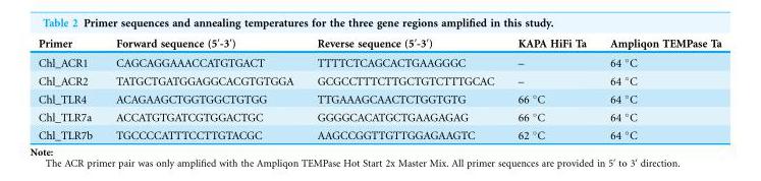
<table><thead><tr><td>Primer</td><td>Forward sequence (5′-3′)</td><td>Reverse sequence (5′-3′)</td><td>KAPA HiFi Ta</td><td>Ampliqon TEMPase Ta</td></tr></thead><tbody><tr><td>Chl_ACR1</td><td>CAGCAGGAAACCATGTGACT</td><td>TTTTCTCAGCACTGAAGGGC</td><td>–</td><td>64 °C</td></tr><tr><td>Chl_ACR2</td><td>TATGCTGATGGAGGCACGTGTGGA</td><td>GCGCCTTTCTTGCTGTCTTTGCAC</td><td>–</td><td>64 °C</td></tr><tr><td>Chl_TLR4</td><td>ACAGAAGCTGGTGGCTGTGG</td><td>TTGAAAGCAACTCTGGTGTG</td><td>66 °C</td><td>64 °C</td></tr><tr><td>Chl_TLR7a</td><td>ACCATGTGATCGTGGACTGC</td><td>GGGGCACATGCTGAAGAGAG</td><td>66 °C</td><td>64 °C</td></tr><tr><td>Chl_TLR7b</td><td>TGCCCCATTTCCTTGTACGC</td><td>AAGCCGGTTGTTGGAGAAGTC</td><td>62 °C</td><td>64 °C</td></tr></tbody></table>